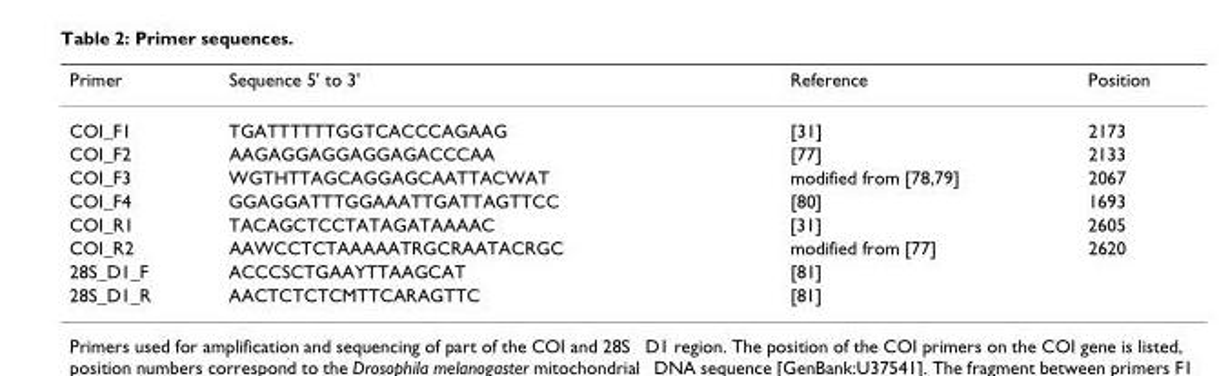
<table><thead><tr><td>Primer</td><td>Sequence 5&#x27; to 3&#x27;</td><td>Reference</td><td>Position</td></tr></thead><tbody><tr><td>COI_F1</td><td>TGATTTTTTGGTCACCCAGAAG</td><td>[31]</td><td>2173</td></tr><tr><td>COI_F2</td><td>AAGAGGAGGAGGAGACCCAA</td><td>[77]</td><td>2133</td></tr><tr><td>COI_F3</td><td>WGTHTTAGCAGGAGCAATTACWAT</td><td>modified from [78,79]</td><td>2067</td></tr><tr><td>COI_F4</td><td>GGAGGATTTGGAAATTGATTAGTTCC</td><td>[80]</td><td>1693</td></tr><tr><td>COI_R1</td><td>TACAGCTCCTATAGATAAAAC</td><td>[31]</td><td>2605</td></tr><tr><td>COI_R2</td><td>AAWCCTCTAAAAATRGCRAATACRGC</td><td>modified from [77]</td><td>2620</td></tr><tr><td>28S_D1_F</td><td>ACCCSCTGAAYTTAAGCAT</td><td>[81]</td><td></td></tr><tr><td>28S_D1_R</td><td>AACTCTCTCMTTCARAGTTC</td><td>[81]</td><td></td></tr></tbody></table>